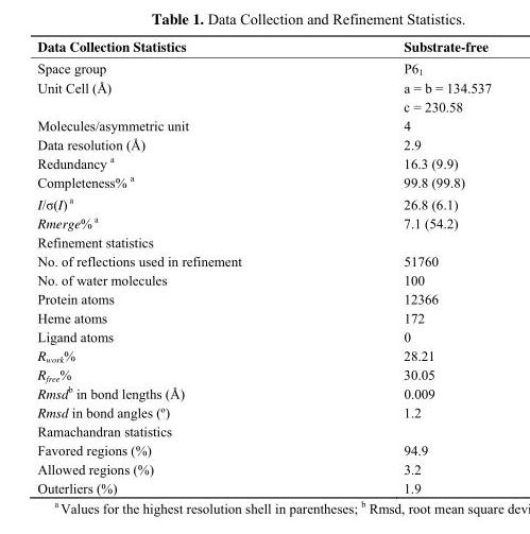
<table><thead><tr><td>Data Collection Statistics</td><td>Substrate-free</td></tr></thead><tbody><tr><td>Space group</td><td>P6<sub>1</sub></td></tr><tr><td>Unit Cell (Å)</td><td>a = b = 134.537 c = 230.58</td></tr><tr><td>Molecules/asymmetric unit</td><td>4</td></tr><tr><td>Data resolution (Å)</td><td>2.9</td></tr><tr><td>Redundancy <sup>a</sup></td><td>16.3 (9.9)</td></tr><tr><td>Completeness% <sup>a</sup></td><td>99.8 (99.8)</td></tr><tr><td>I/σ(I) <sup>a</sup></td><td>26.8 (6.1)</td></tr><tr><td>Rmerge% <sup>a</sup></td><td>7.1 (54.2)</td></tr><tr><td colspan="2">Refinement statistics</td></tr><tr><td>No. of reflections used in refinement</td><td>51760</td></tr><tr><td>No. of water molecules</td><td>100</td></tr><tr><td>Protein atoms</td><td>12366</td></tr><tr><td>Heme atoms</td><td>172</td></tr><tr><td>Ligand atoms</td><td>0</td></tr><tr><td>R<sub>work</sub>%</td><td>28.21</td></tr><tr><td>R<sub>free</sub>%</td><td>30.05</td></tr><tr><td>Rmsd<sup>b</sup> in bond lengths (Å)</td><td>0.009</td></tr><tr><td>Rmsd in bond angles (º)</td><td>1.2</td></tr><tr><td colspan="2">Ramachandran statistics</td></tr><tr><td>Favored regions (%)</td><td>94.9</td></tr><tr><td>Allowed regions (%)</td><td>3.2</td></tr><tr><td>Outerliers (%)</td><td>1.9</td></tr></tbody></table>